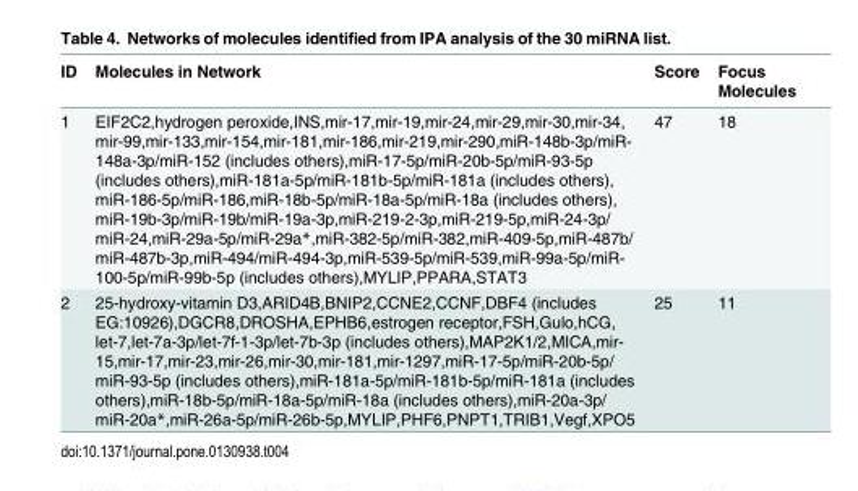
<table><thead><tr><td>ID</td><td>Molecules in Network</td><td>Score</td><td>Focus Molecules</td></tr></thead><tbody><tr><td>1</td><td>EIF2C2,hydrogen peroxide,INS,mir-17,mir-19,mir-24,mir-29,mir-30,mir-34, mir-99,mir-133,mir-154,mir-181,mir-186,mir-219,mir-290,miR-148b-3p/miR- 148a-3p/miR-152 (includes others),miR-17-5p/miR-20b-5p/miR-93-5p (includes others),miR-181a-5p/miR-181b-5p/miR-181a (includes others), miR-186-5p/miR-186,miR-18b-5p/miR-18a-5p/miR-18a (includes others), miR-19b-3p/miR-19b/miR-19a-3p,miR-219-2-3p,miR-219-5p,miR-24-3p/ miR-24,miR-29a-5p/miR-29a*,miR-382-5p/miR-382,miR-409-5p,miR-487b/ miR-487b-3p,miR-494/miR-494-3p,miR-539-5p/miR-539,miR-99a-5p/miR- 100-5p/miR-99b-5p (includes others),MYLIP,PPARA,STAT3</td><td>47</td><td>18</td></tr><tr><td>2</td><td>25-hydroxy-vitamin D3,ARID4B,BNIP2,CCNE2,CCNF,DBF4 (includes EG:10926),DGCR8,DROSHA,EPHB6,estrogen receptor,FSH,Gulo,hCG, let-7,let-7a-3p/let-7f-1-3p/let-7b-3p (includes others),MAP2K1/2,MICA,mir- 15,mir-17,mir-23,mir-26,mir-30,mir-181,mir-1297,miR-17-5p/miR-20b-5p/ miR-93-5p (includes others),miR-181a-5p/miR-181b-5p/miR-181a (includes others),miR-18b-5p/miR-18a-5p/miR-18a (includes others),miR-20a-3p/ miR-20a*,miR-26a-5p/miR-26b-5p,MYLIP,PHF6,PNPT1,TRIB1,Vegf,XPO5</td><td>25</td><td>11</td></tr></tbody></table>